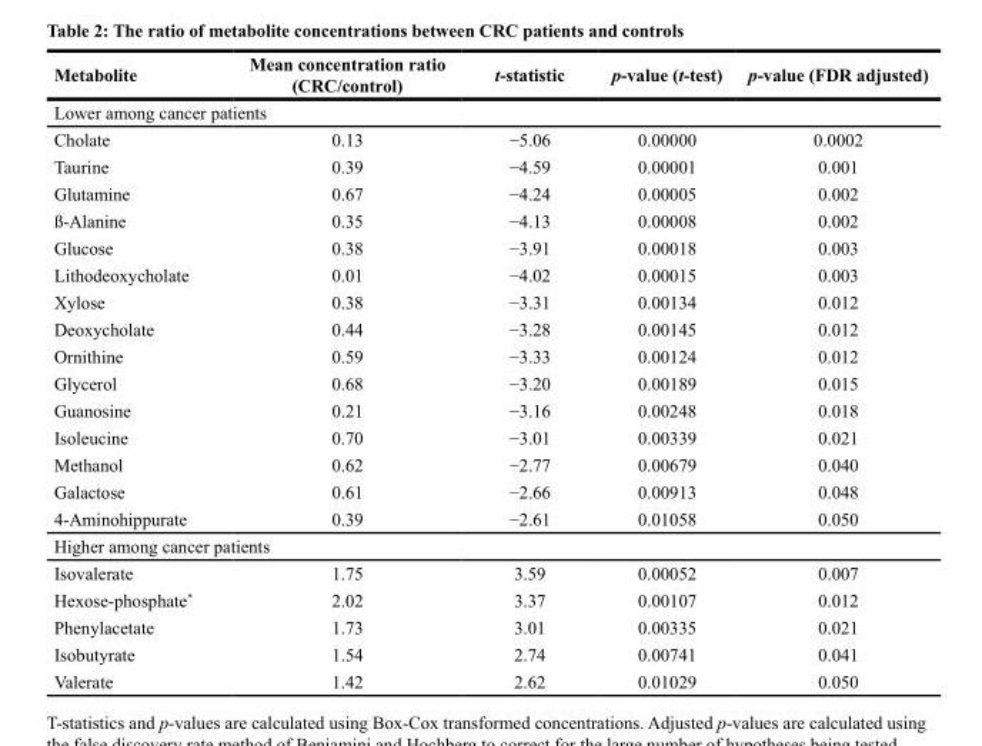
<table><thead><tr><td>Metabolite</td><td>Mean concentration ratio (CRC/control)</td><td>t-statistic</td><td>p-value (t-test)</td><td>p-value (FDR adjusted)</td></tr></thead><tbody><tr><td colspan="5">Lower among cancer patients</td></tr><tr><td>Cholate</td><td>0.13</td><td>−5.06</td><td>0.00000</td><td>0.0002</td></tr><tr><td>Taurine</td><td>0.39</td><td>−4.59</td><td>0.00001</td><td>0.001</td></tr><tr><td>Glutamine</td><td>0.67</td><td>−4.24</td><td>0.00005</td><td>0.002</td></tr><tr><td>ß-Alanine</td><td>0.35</td><td>−4.13</td><td>0.00008</td><td>0.002</td></tr><tr><td>Glucose</td><td>0.38</td><td>−3.91</td><td>0.00018</td><td>0.003</td></tr><tr><td>Lithodeoxycholate</td><td>0.01</td><td>−4.02</td><td>0.00015</td><td>0.003</td></tr><tr><td>Xylose</td><td>0.38</td><td>−3.31</td><td>0.00134</td><td>0.012</td></tr><tr><td>Deoxycholate</td><td>0.44</td><td>−3.28</td><td>0.00145</td><td>0.012</td></tr><tr><td>Ornithine</td><td>0.59</td><td>−3.33</td><td>0.00124</td><td>0.012</td></tr><tr><td>Glycerol</td><td>0.68</td><td>−3.20</td><td>0.00189</td><td>0.015</td></tr><tr><td>Guanosine</td><td>0.21</td><td>−3.16</td><td>0.00248</td><td>0.018</td></tr><tr><td>Isoleucine</td><td>0.70</td><td>−3.01</td><td>0.00339</td><td>0.021</td></tr><tr><td>Methanol</td><td>0.62</td><td>−2.77</td><td>0.00679</td><td>0.040</td></tr><tr><td>Galactose</td><td>0.61</td><td>−2.66</td><td>0.00913</td><td>0.048</td></tr><tr><td>4-Aminohippurate</td><td>0.39</td><td>−2.61</td><td>0.01058</td><td>0.050</td></tr><tr><td colspan="5">Higher among cancer patients</td></tr><tr><td>Isovalerate</td><td>1.75</td><td>3.59</td><td>0.00052</td><td>0.007</td></tr><tr><td>Hexose-phosphate*</td><td>2.02</td><td>3.37</td><td>0.00107</td><td>0.012</td></tr><tr><td>Phenylacetate</td><td>1.73</td><td>3.01</td><td>0.00335</td><td>0.021</td></tr><tr><td>Isobutyrate</td><td>1.54</td><td>2.74</td><td>0.00741</td><td>0.041</td></tr><tr><td>Valerate</td><td>1.42</td><td>2.62</td><td>0.01029</td><td>0.050</td></tr></tbody></table>